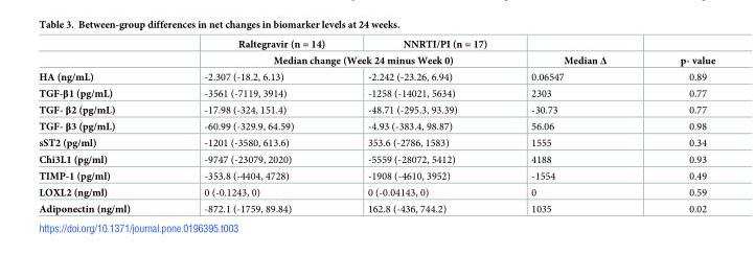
<table><thead><tr><td rowspan="2"></td><td>Raltegravir (n = 14)</td><td>NNRTI/PI (n = 17)</td><td rowspan="2">Median Δ</td><td rowspan="2">p- value</td></tr><tr><td colspan="2">Median change (Week 24 minus Week 0)</td></tr></thead><tbody><tr><td>HA (ng/mL)</td><td>-2.307 (-18.2, 6.13)</td><td>-2.242 (-23.26, 6.94)</td><td>0.06547</td><td>0.89</td></tr><tr><td>TGF-β1 (pg/mL)</td><td>-3561 (-7119, 3914)</td><td>-1258 (-14021, 5634)</td><td>2303</td><td>0.77</td></tr><tr><td>TGF- β2 (pg/mL)</td><td>-17.98 (-324, 151.4)</td><td>-48.71 (-295.3, 93.39)</td><td>-30.73</td><td>0.77</td></tr><tr><td>TGF- β3 (pg/mL)</td><td>-60.99 (-329.9, 64.59)</td><td>-4.93 (-383.4, 98.87)</td><td>56.06</td><td>0.98</td></tr><tr><td>sST2 (pg/ml)</td><td>-1201 (-3580, 613.6)</td><td>353.6 (-2786, 1583)</td><td>1555</td><td>0.34</td></tr><tr><td>Chi3L1 (pg/ml)</td><td>-9747 (-23079, 2020)</td><td>-5559 (-28072, 5412)</td><td>4188</td><td>0.93</td></tr><tr><td>TIMP-1 (pg/ml)</td><td>-353.8 (-4404, 4728)</td><td>-1908 (-4610, 3952)</td><td>-1554</td><td>0.49</td></tr><tr><td>LOXL2 (ng/ml)</td><td>0 (-0.1243, 0)</td><td>0 (-0.04143, 0)</td><td>0</td><td>0.59</td></tr><tr><td>Adiponectin (ng/ml)</td><td>-872.1 (-1759, 89.84)</td><td>162.8 (-436, 744.2)</td><td>1035</td><td>0.02</td></tr></tbody></table>